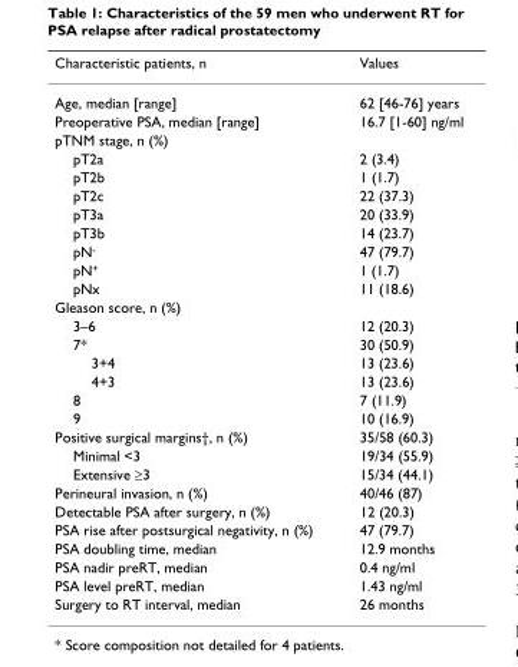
<table><thead><tr><td>Characteristic patients, n</td><td>Values</td></tr></thead><tbody><tr><td>Age, median [range]</td><td>62 [46-76] years</td></tr><tr><td>Preoperative PSA, median [range]</td><td>16.7 [1-60] ng/ml</td></tr><tr><td colspan="2">pTNM stage, n (%)</td></tr><tr><td>pT2a</td><td>2 (3.4)</td></tr><tr><td>pT2b</td><td>1 (1.7)</td></tr><tr><td>pT2c</td><td>22 (37.3)</td></tr><tr><td>pT3a</td><td>20 (33.9)</td></tr><tr><td>pT3b</td><td>14 (23.7)</td></tr><tr><td>pN<sup>-</sup></td><td>47 (79.7)</td></tr><tr><td>pN<sup>+</sup></td><td>1 (1.7)</td></tr><tr><td>pNx</td><td>11 (18.6)</td></tr><tr><td colspan="2">Gleason score, n (%)</td></tr><tr><td>3–6</td><td>12 (20.3)</td></tr><tr><td>7*</td><td>30 (50.9)</td></tr><tr><td>3+4</td><td>13 (23.6)</td></tr><tr><td>4+3</td><td>13 (23.6)</td></tr><tr><td>8</td><td>7 (11.9)</td></tr><tr><td>9</td><td>10 (16.9)</td></tr><tr><td>Positive surgical margins†, n (%)</td><td>35/58 (60.3)</td></tr><tr><td>Minimal &lt;3</td><td>19/34 (55.9)</td></tr><tr><td>Extensive ≥3</td><td>15/34 (44.1)</td></tr><tr><td>Perineural invasion, n (%)</td><td>40/46 (87)</td></tr><tr><td>Detectable PSA after surgery, n (%)</td><td>12 (20.3)</td></tr><tr><td>PSA rise after postsurgical negativity, n (%)</td><td>47 (79.7)</td></tr><tr><td>PSA doubling time, median</td><td>12.9 months</td></tr><tr><td>PSA nadir preRT, median</td><td>0.4 ng/ml</td></tr><tr><td>PSA level preRT, median</td><td>1.43 ng/ml</td></tr><tr><td>Surgery to RT interval, median</td><td>26 months</td></tr></tbody></table>